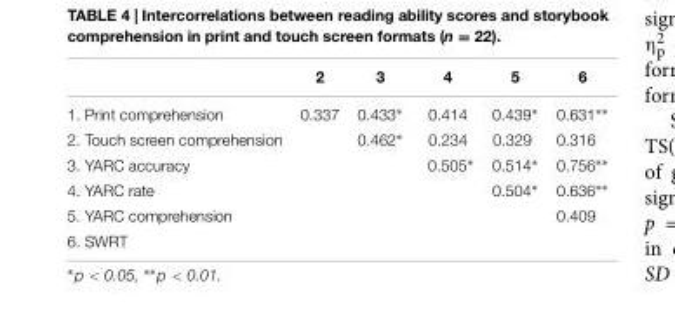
<table><thead><tr><td></td><td>2</td><td>3</td><td>4</td><td>5</td><td>6</td></tr></thead><tbody><tr><td>1. Print comprehension</td><td>0.337</td><td>0.433∗</td><td>0.414</td><td>0.439∗</td><td>0.631∗∗</td></tr><tr><td>2. Touch screen comprehension</td><td></td><td>0.462∗</td><td>0.234</td><td>0.329</td><td>0.316</td></tr><tr><td>3. YARC accuracy</td><td></td><td></td><td>0.505∗</td><td>0.514∗</td><td>0.756∗∗</td></tr><tr><td>4. YARC rate</td><td></td><td></td><td></td><td>0.504∗</td><td>0.636∗∗</td></tr><tr><td>5. YARC comprehension</td><td></td><td></td><td></td><td></td><td>0.409</td></tr><tr><td>6. SWRT</td><td></td><td></td><td></td><td></td><td></td></tr></tbody></table>